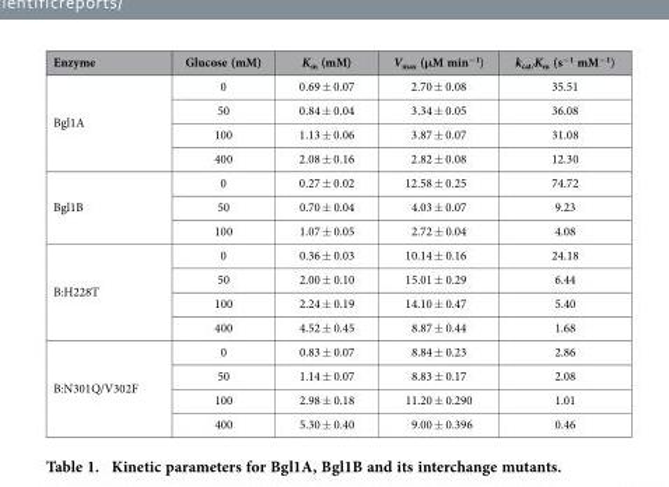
<table><thead><tr><td>Enzyme</td><td>Glucose (mM)</td><td>K<sub>m (mM)</sub></td><td>V<sub>max (μM min</sub><sup><sub>−1</sub></sup><sub>)</sub></td><td>k<sub>cat/</sub>K<sub>m (s</sub><sup><sub>−1</sub></sup><sub> mM</sub><sup><sub>−1</sub></sup><sub>)</sub></td></tr></thead><tbody><tr><td rowspan="4">Bgl1A</td><td>0</td><td>0.69 ± 0.07</td><td>2.70 ± 0.08</td><td>35.51</td></tr><tr><td>50</td><td>0.84 ± 0.04</td><td>3.34 ± 0.05</td><td>36.08</td></tr><tr><td>100</td><td>1.13 ± 0.06</td><td>3.87 ± 0.07</td><td>31.08</td></tr><tr><td>400</td><td>2.08 ± 0.16</td><td>2.82 ± 0.08</td><td>12.30</td></tr><tr><td rowspan="3">Bgl1B</td><td>0</td><td>0.27 ± 0.02</td><td>12.58 ± 0.25</td><td>74.72</td></tr><tr><td>50</td><td>0.70 ± 0.04</td><td>4.03 ± 0.07</td><td>9.23</td></tr><tr><td>100</td><td>1.07 ± 0.05</td><td>2.72 ± 0.04</td><td>4.08</td></tr><tr><td rowspan="4">B:H228T</td><td>0</td><td>0.36 ± 0.03</td><td>10.14 ± 0.16</td><td>24.18</td></tr><tr><td>50</td><td>2.00 ± 0.10</td><td>15.01 ± 0.29</td><td>6.44</td></tr><tr><td>100</td><td>2.24 ± 0.19</td><td>14.10 ± 0.47</td><td>5.40</td></tr><tr><td>400</td><td>4.52 ± 0.45</td><td>8.87 ± 0.44</td><td>1.68</td></tr><tr><td rowspan="4">B:N301Q/V302F</td><td>0</td><td>0.83 ± 0.07</td><td>8.84 ± 0.23</td><td>2.86</td></tr><tr><td>50</td><td>1.14 ± 0.07</td><td>8.83 ± 0.17</td><td>2.08</td></tr><tr><td>100</td><td>2.98 ± 0.18</td><td>11.20 ± 0.290</td><td>1.01</td></tr><tr><td>400</td><td>5.30 ± 0.40</td><td>9.00 ± 0.396</td><td>0.46</td></tr></tbody></table>